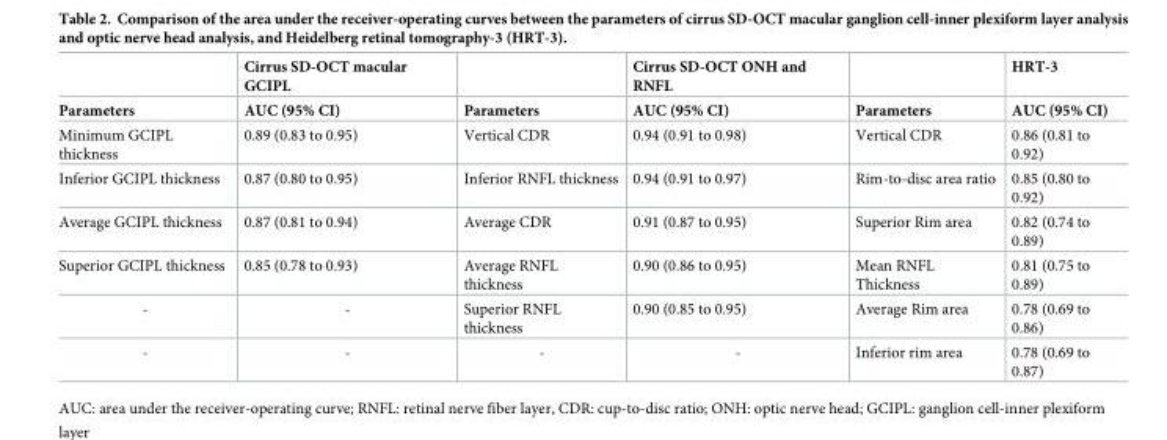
<table><thead><tr><td></td><td>Cirrus SD-OCT macular GCIPL</td><td></td><td>Cirrus SD-OCT ONH and RNFL</td><td></td><td>HRT-3</td></tr></thead><tbody><tr><td>Parameters</td><td>AUC (95% CI)</td><td>Parameters</td><td>AUC (95% CI)</td><td>Parameters</td><td>AUC (95% CI)</td></tr><tr><td>Minimum GCIPL thickness</td><td>0.89 (0.83 to 0.95)</td><td>Vertical CDR</td><td>0.94 (0.91 to 0.98)</td><td>Vertical CDR</td><td>0.86 (0.81 to 0.92)</td></tr><tr><td>Inferior GCIPL thickness</td><td>0.87 (0.80 to 0.95)</td><td>Inferior RNFL thickness</td><td>0.94 (0.91 to 0.97)</td><td>Rim-to-disc area ratio</td><td>0.85 (0.80 to 0.92)</td></tr><tr><td>Average GCIPL thickness</td><td>0.87 (0.81 to 0.94)</td><td>Average CDR</td><td>0.91 (0.87 to 0.95)</td><td>Superior Rim area</td><td>0.82 (0.74 to 0.89)</td></tr><tr><td>Superior GCIPL thickness</td><td>0.85 (0.78 to 0.93)</td><td>Average RNFL thickness</td><td>0.90 (0.86 to 0.95)</td><td>Mean RNFL Thickness</td><td>0.81 (0.75 to 0.89)</td></tr><tr><td>-</td><td>-</td><td>Superior RNFL thickness</td><td>0.90 (0.85 to 0.95)</td><td>Average Rim area</td><td>0.78 (0.69 to 0.86)</td></tr><tr><td>-</td><td>-</td><td>-</td><td>-</td><td>Inferior rim area</td><td>0.78 (0.69 to 0.87)</td></tr></tbody></table>